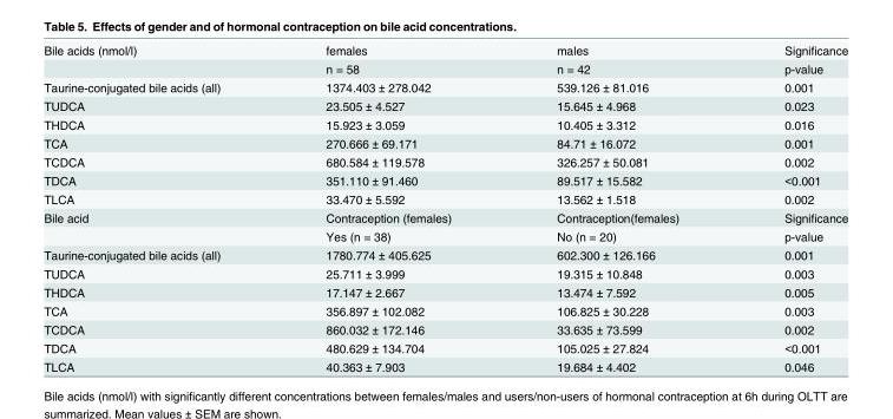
<table><tbody><tr><td rowspan="2">Bile acids (nmol/l)</td><td>females</td><td>males</td><td>Significance</td></tr><tr><td>n = 58</td><td>n = 42</td><td>p-value</td></tr><tr><td>Taurine-conjugated bile acids (all)</td><td>1374.403 ± 278.042</td><td>539.126 ± 81.016</td><td>0.001</td></tr><tr><td>TUDCA</td><td>23.505 ± 4.527</td><td>15.645 ± 4.968</td><td>0.023</td></tr><tr><td>THDCA</td><td>15.923 ± 3.059</td><td>10.405 ± 3.312</td><td>0.016</td></tr><tr><td>TCA</td><td>270.666 ± 69.171</td><td>84.71 ± 16.072</td><td>0.001</td></tr><tr><td>TCDCA</td><td>680.584 ± 119.578</td><td>326.257 ± 50.081</td><td>0.002</td></tr><tr><td>TDCA</td><td>351.110 ± 91.460</td><td>89.517 ± 15.582</td><td>&lt;0.001</td></tr><tr><td>TLCA</td><td>33.470 ± 5.592</td><td>13.562 ± 1.518</td><td>0.002</td></tr><tr><td rowspan="2">Bile acid</td><td>Contraception (females)</td><td>Contraception(females)</td><td>Significance</td></tr><tr><td>Yes (n = 38)</td><td>No (n = 20)</td><td>p-value</td></tr><tr><td>Taurine-conjugated bile acids (all)</td><td>1780.774 ± 405.625</td><td>602.300 ± 126.166</td><td>0.001</td></tr><tr><td>TUDCA</td><td>25.711 ± 3.999</td><td>19.315 ± 10.848</td><td>0.003</td></tr><tr><td>THDCA</td><td>17.147 ± 2.667</td><td>13.474 ± 7.592</td><td>0.005</td></tr><tr><td>TCA</td><td>356.897 ± 102.082</td><td>106.825 ± 30.228</td><td>0.003</td></tr><tr><td>TCDCA</td><td>860.032 ± 172.146</td><td>33.635 ± 73.599</td><td>0.002</td></tr><tr><td>TDCA</td><td>480.629 ± 134.704</td><td>105.025 ± 27.824</td><td>&lt;0.001</td></tr><tr><td>TLCA</td><td>40.363 ± 7.903</td><td>19.684 ± 4.402</td><td>0.046</td></tr></tbody></table>